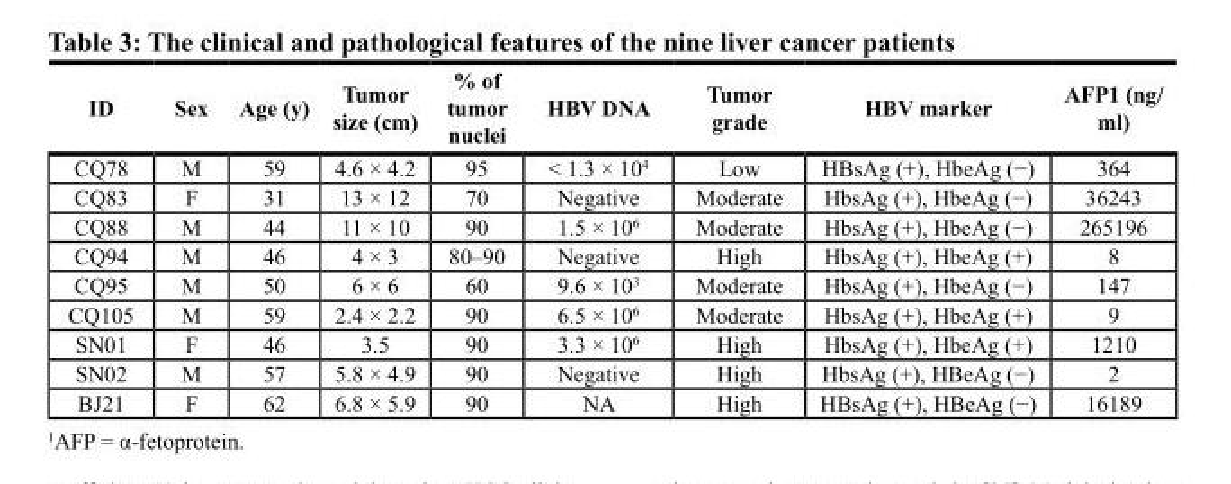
<table><thead><tr><td>Id</td><td>Sex</td><td>Age (y)</td><td>tumor size (cm)</td><td>% of tumor nuclei</td><td>HBV DNA</td><td>tumor grade</td><td>HBV marker</td><td>AFP1 (ng/ ml)</td></tr></thead><tbody><tr><td>CQ78</td><td>M</td><td>59</td><td>4.6 × 4.2</td><td>95</td><td>&lt; 1.3 × 10<sup>4</sup></td><td>Low</td><td>HBsAg (+), HbeAg (−)</td><td>364</td></tr><tr><td>CQ83</td><td>F</td><td>31</td><td>13 × 12</td><td>70</td><td>Negative</td><td>Moderate</td><td>HbsAg (+), HbeAg (−)</td><td>36243</td></tr><tr><td>CQ88</td><td>M</td><td>44</td><td>11 × 10</td><td>90</td><td>1.5 × 10<sup>6</sup></td><td>Moderate</td><td>HbsAg (+), HbeAg (−)</td><td>265196</td></tr><tr><td>CQ94</td><td>M</td><td>46</td><td>4 × 3</td><td>80–90</td><td>Negative</td><td>High</td><td>HbsAg (+), HbeAg (+)</td><td>8</td></tr><tr><td>CQ95</td><td>M</td><td>50</td><td>6 × 6</td><td>60</td><td>9.6 × 10<sup>3</sup></td><td>Moderate</td><td>HbsAg (+), HbeAg (−)</td><td>147</td></tr><tr><td>CQ105</td><td>M</td><td>59</td><td>2.4 × 2.2</td><td>90</td><td>6.5 × 10<sup>6</sup></td><td>Moderate</td><td>HbsAg (+), HbeAg (+)</td><td>9</td></tr><tr><td>SN01</td><td>F</td><td>46</td><td>3.5</td><td>90</td><td>3.3 × 10<sup>6</sup></td><td>High</td><td>HbsAg (+), HbeAg (+)</td><td>1210</td></tr><tr><td>SN02</td><td>M</td><td>57</td><td>5.8 × 4.9</td><td>90</td><td>Negative</td><td>High</td><td>HbsAg (+), HBeAg (−)</td><td>2</td></tr><tr><td>BJ21</td><td>F</td><td>62</td><td>6.8 × 5.9</td><td>90</td><td>NA</td><td>High</td><td>HBsAg (+), HBeAg (−)</td><td>16189</td></tr></tbody></table>